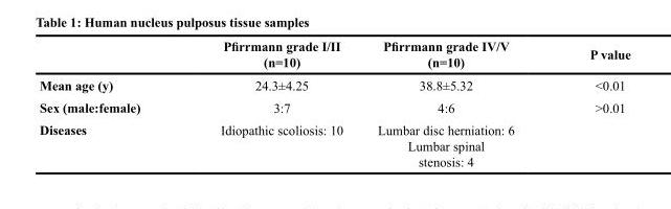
<table><thead><tr><td></td><td>Pfirrmann grade I/II (n=10)</td><td>Pfirrmann grade IV/V (n=10)</td><td>P value</td></tr></thead><tbody><tr><td>Mean age (y)</td><td>24.3±4.25</td><td>38.8±5.32</td><td>&lt;0.01</td></tr><tr><td>Sex (male:female)</td><td>3:7</td><td>4:6</td><td>&gt;0.01</td></tr><tr><td>Diseases</td><td>Idiopathic scoliosis: 10</td><td>Lumbar disc herniation: 6 Lumbar spinal stenosis: 4</td><td></td></tr></tbody></table>